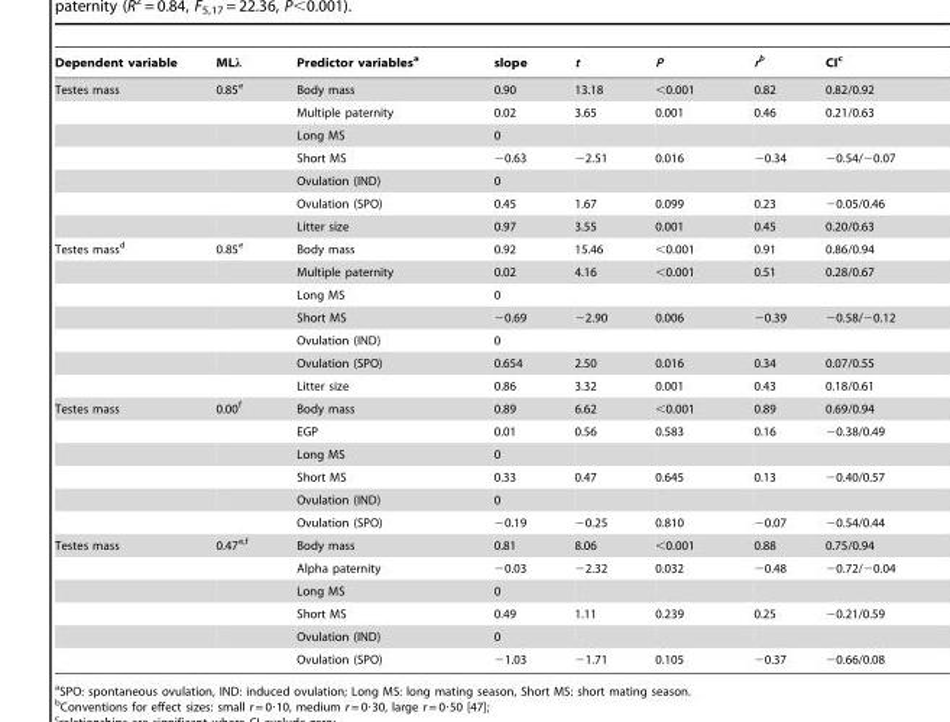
<table><thead><tr><td>Dependent variable</td><td>MLλ</td><td>Predictor variables<sup>a</sup></td><td>slope</td><td>t</td><td>P</td><td>rb</td><td>CI<sup>c</sup></td></tr></thead><tbody><tr><td rowspan="7">Testes mass</td><td>0.85<sup>e</sup></td><td>Body mass</td><td>0.90</td><td>13.18</td><td>&lt;0.001</td><td>0.82</td><td>0.82/0.92</td></tr><tr><td></td><td>Multiple paternity</td><td>0.02</td><td>3.65</td><td>0.001</td><td>0.46</td><td>0.21/0.63</td></tr><tr><td></td><td>Long MS</td><td>0</td><td></td><td></td><td></td><td></td></tr><tr><td></td><td>Short MS</td><td>−0.63</td><td>−2.51</td><td>0.016</td><td>−0.34</td><td>−0.54/−0.07</td></tr><tr><td></td><td>Ovulation (IND)</td><td>0</td><td></td><td></td><td></td><td></td></tr><tr><td></td><td>Ovulation (SPO)</td><td>0.45</td><td>1.67</td><td>0.099</td><td>0.23</td><td>−0.05/0.46</td></tr><tr><td></td><td>Litter size</td><td>0.97</td><td>3.55</td><td>0.001</td><td>0.45</td><td>0.20/0.63</td></tr><tr><td rowspan="7">Testes mass<sup>d</sup></td><td>0.85<sup>e</sup></td><td>Body mass</td><td>0.92</td><td>15.46</td><td>&lt;0.001</td><td>0.91</td><td>0.86/0.94</td></tr><tr><td></td><td>Multiple paternity</td><td>0.02</td><td>4.16</td><td>&lt;0.001</td><td>0.51</td><td>0.28/0.67</td></tr><tr><td></td><td>Long MS</td><td>0</td><td></td><td></td><td></td><td></td></tr><tr><td></td><td>Short MS</td><td>−0.69</td><td>−2.90</td><td>0.006</td><td>−0.39</td><td>−0.58/−0.12</td></tr><tr><td></td><td>Ovulation (IND)</td><td>0</td><td></td><td></td><td></td><td></td></tr><tr><td></td><td>Ovulation (SPO)</td><td>0.654</td><td>2.50</td><td>0.016</td><td>0.34</td><td>0.07/0.55</td></tr><tr><td></td><td>Litter size</td><td>0.86</td><td>3.32</td><td>0.001</td><td>0.43</td><td>0.18/0.61</td></tr><tr><td rowspan="6">Testes mass</td><td>0.00<sup>f</sup></td><td>Body mass</td><td>0.89</td><td>6.62</td><td>&lt;0.001</td><td>0.89</td><td>0.69/0.94</td></tr><tr><td></td><td>EGP</td><td>0.01</td><td>0.56</td><td>0.583</td><td>0.16</td><td>−0.38/0.49</td></tr><tr><td></td><td>Long MS</td><td>0</td><td></td><td></td><td></td><td></td></tr><tr><td></td><td>Short MS</td><td>0.33</td><td>0.47</td><td>0.645</td><td>0.13</td><td>−0.40/0.57</td></tr><tr><td></td><td>Ovulation (IND)</td><td>0</td><td></td><td></td><td></td><td></td></tr><tr><td></td><td>Ovulation (SPO)</td><td>−0.19</td><td>−0.25</td><td>0.810</td><td>−0.07</td><td>−0.54/0.44</td></tr><tr><td rowspan="6">Testes mass</td><td>0.47e,f</td><td>Body mass</td><td>0.81</td><td>8.06</td><td>&lt;0.001</td><td>0.88</td><td>0.75/0.94</td></tr><tr><td></td><td>Alpha paternity</td><td>−0.03</td><td>−2.32</td><td>0.032</td><td>−0.48</td><td>−0.72/−0.04</td></tr><tr><td></td><td>Long MS</td><td>0</td><td></td><td></td><td></td><td></td></tr><tr><td></td><td>Short MS</td><td>0.49</td><td>1.11</td><td>0.239</td><td>0.25</td><td>−0.21/0.59</td></tr><tr><td></td><td>Ovulation (IND)</td><td>0</td><td></td><td></td><td></td><td></td></tr><tr><td></td><td>Ovulation (SPO)</td><td>−1.03</td><td>−1.71</td><td>0.105</td><td>−0.37</td><td>−0.66/0.08</td></tr></tbody></table>